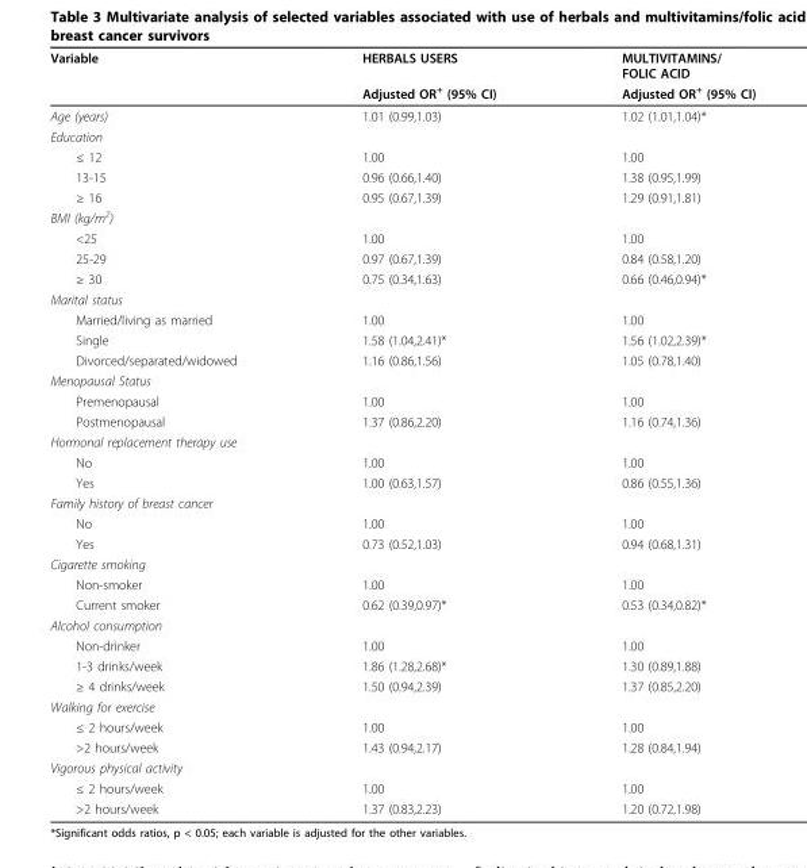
<table><thead><tr><td rowspan="2">Variable</td><td rowspan="2">HERBALS USERS Adjusted OR<sup>+</sup> (95% CI)</td><td rowspan="2">MULTIVITAMINS/ FOLIC ACID Adjusted OR<sup>+</sup> (95% CI)</td></tr><tr></tr></thead><tbody><tr><td>Age (years)</td><td>1.01 (0.99,1.03)</td><td>1.02 (1.01,1.04)*</td></tr><tr><td colspan="3">Education</td></tr><tr><td>≤ 12</td><td>1.00</td><td>1.00</td></tr><tr><td>13-15</td><td>0.96 (0.66,1.40)</td><td>1.38 (0.95,1.99)</td></tr><tr><td>≥ 16</td><td>0.95 (0.67,1.39)</td><td>1.29 (0.91,1.81)</td></tr><tr><td colspan="3">BMI (kg/m<sup>2</sup>)</td></tr><tr><td>&lt;25</td><td>1.00</td><td>1.00</td></tr><tr><td>25-29</td><td>0.97 (0.67,1.39)</td><td>0.84 (0.58,1.20)</td></tr><tr><td>≥ 30</td><td>0.75 (0.34,1.63)</td><td>0.66 (0.46,0.94)*</td></tr><tr><td colspan="3">Marital status</td></tr><tr><td>Married/living as married</td><td>1.00</td><td>1.00</td></tr><tr><td>Single</td><td>1.58 (1.04,2.41)*</td><td>1.56 (1.02,2.39)*</td></tr><tr><td>Divorced/separated/widowed</td><td>1.16 (0.86,1.56)</td><td>1.05 (0.78,1.40)</td></tr><tr><td colspan="3">Menopausal Status</td></tr><tr><td>Premenopausal</td><td>1.00</td><td>1.00</td></tr><tr><td>Postmenopausal</td><td>1.37 (0.86,2.20)</td><td>1.16 (0.74,1.36)</td></tr><tr><td colspan="3">Hormonal replacement therapy use</td></tr><tr><td>No</td><td>1.00</td><td>1.00</td></tr><tr><td>Yes</td><td>1.00 (0.63,1.57)</td><td>0.86 (0.55,1.36)</td></tr><tr><td colspan="3">Family history of breast cancer</td></tr><tr><td>No</td><td>1.00</td><td>1.00</td></tr><tr><td>Yes</td><td>0.73 (0.52,1.03)</td><td>0.94 (0.68,1.31)</td></tr><tr><td colspan="3">Cigarette smoking</td></tr><tr><td>Non-smoker</td><td>1.00</td><td>1.00</td></tr><tr><td>Current smoker</td><td>0.62 (0.39,0.97)*</td><td>0.53 (0.34,0.82)*</td></tr><tr><td colspan="3">Alcohol consumption</td></tr><tr><td>Non-drinker</td><td>1.00</td><td>1.00</td></tr><tr><td>1-3 drinks/week</td><td>1.86 (1.28,2.68)*</td><td>1.30 (0.89,1.88)</td></tr><tr><td>≥ 4 drinks/week</td><td>1.50 (0.94,2.39)</td><td>1.37 (0.85,2.20)</td></tr><tr><td colspan="3">Walking for exercise</td></tr><tr><td>≤ 2 hours/week</td><td>1.00</td><td>1.00</td></tr><tr><td>&gt;2 hours/week</td><td>1.43 (0.94,2.17)</td><td>1.28 (0.84,1.94)</td></tr><tr><td colspan="3">Vigorous physical activity</td></tr><tr><td>≤ 2 hours/week</td><td>1.00</td><td>1.00</td></tr><tr><td>&gt;2 hours/week</td><td>1.37 (0.83,2.23)</td><td>1.20 (0.72,1.98)</td></tr></tbody></table>